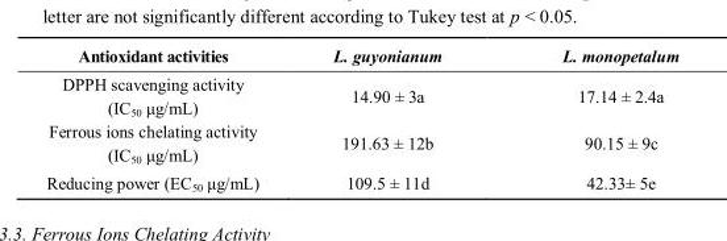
<table><thead><tr><td>Antioxidant activities</td><td>L. guyonianum</td><td>L. monopetalum</td></tr></thead><tbody><tr><td>DPPH scavenging activity (IC<sub>50</sub> μg/mL)</td><td>14.90 ± 3a</td><td>17.14 ± 2.4a</td></tr><tr><td>Ferrous ions chelating activity (IC<sub>50</sub> μg/mL)</td><td>191.63 ± 12b</td><td>90.15 ± 9c</td></tr><tr><td>Reducing power (EC<sub>50</sub> μg/mL)</td><td>109.5 ± 11d</td><td>42.33± 5e</td></tr></tbody></table>